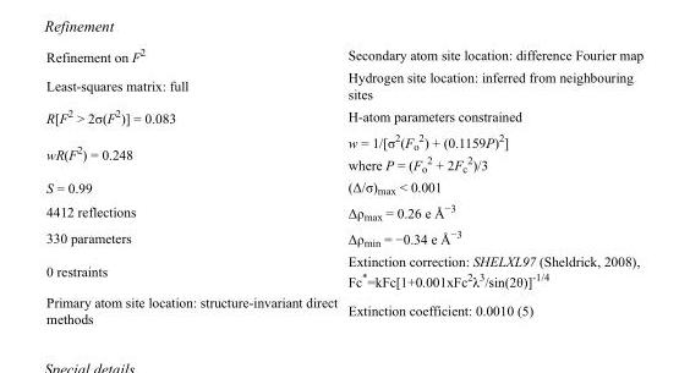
<table><tbody><tr><td>Refinement on F<sup>2</sup></td><td>Secondary atom site location: difference Fourier map</td></tr><tr><td>Least-squares matrix: full</td><td>Hydrogen site location: inferred from neighbouring sites</td></tr><tr><td>R[F<sup>2</sup> &gt; 2σ(F<sup>2</sup>)] = 0.083</td><td>H-atom parameters constrained</td></tr><tr><td>wR(F<sup>2</sup>) = 0.248</td><td>w = 1/[σ<sup>2</sup>(F<sub>o</sub> <sup>2</sup>) + (0.1159P)<sup>2</sup>] where P = (F<sub>o</sub> <sup>2</sup> + 2F<sub>c</sub> <sup>2</sup>)/3</td></tr><tr><td>S = 0.99</td><td>(Δ/σ)<sub>max</sub> &lt; 0.001</td></tr><tr><td>4412 reflections</td><td>Δρ<sub>max</sub> = 0.26 e Å<sup>−3</sup></td></tr><tr><td>330 parameters</td><td>Δρ<sub>min</sub> = −0.34 e Å<sup>−3</sup></td></tr><tr><td>0 restraints</td><td>Extinction correction: SHELXL97 (Sheldrick, 2008), Fc*=kFc[1+0.001xFc<sup>2</sup>λ<sup>3</sup>/sin(2θ)]<sup>-1/4</sup></td></tr><tr><td>Primary atom site location: structure-invariant direct methods</td><td>Extinction coefficient: 0.0010 (5)</td></tr></tbody></table>